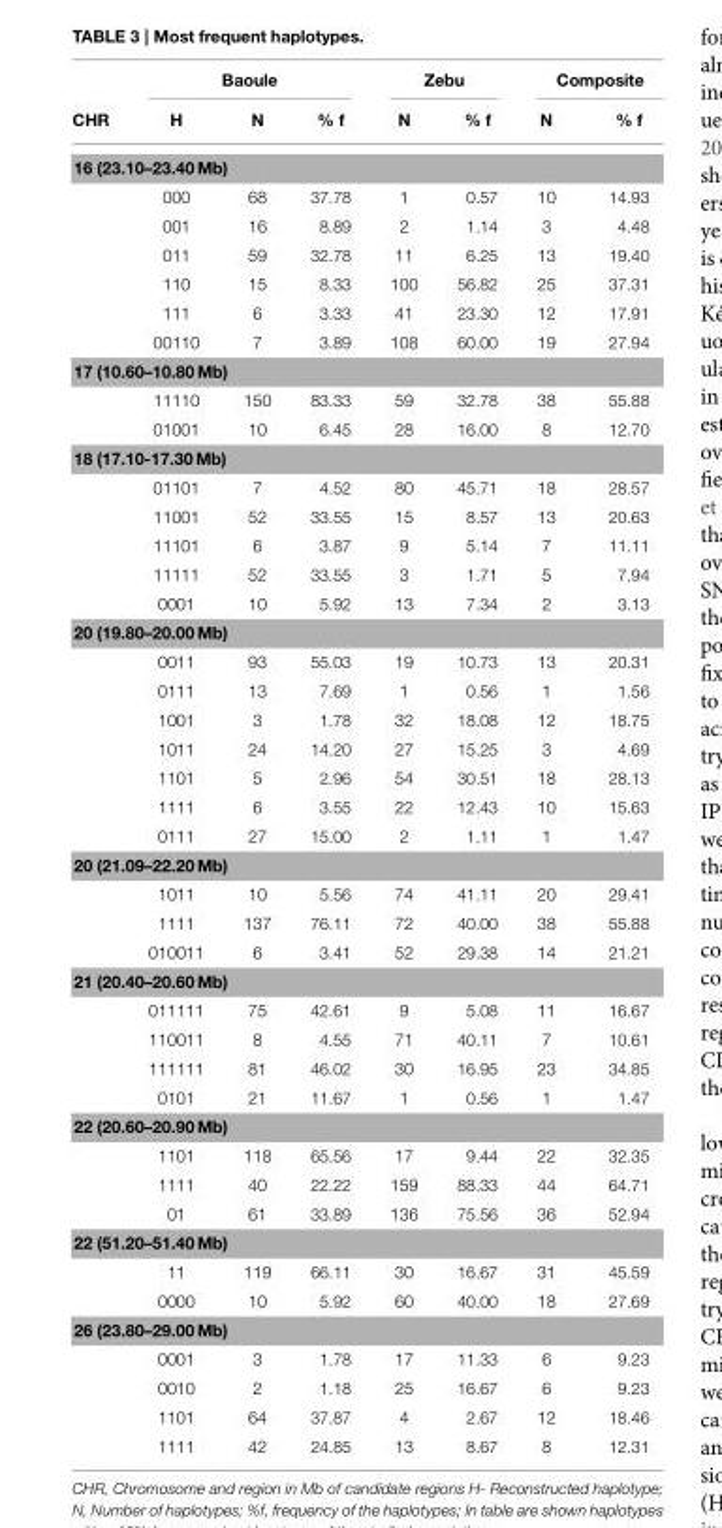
<table><thead><tr><td rowspan="2">CHR</td><td colspan="3">Baoule</td><td colspan="2">Zebu</td><td colspan="2">Composite</td></tr><tr><td>H</td><td>N</td><td>% f</td><td>N</td><td>% f</td><td>N</td><td>% f</td></tr></thead><tbody><tr><td colspan="8">16 (23.10–23.40 Mb)</td></tr><tr><td></td><td>000</td><td>68</td><td>37.78</td><td>1</td><td>0.57</td><td>10</td><td>14.93</td></tr><tr><td></td><td>001</td><td>16</td><td>8.89</td><td>2</td><td>1.14</td><td>3</td><td>4.48</td></tr><tr><td></td><td>011</td><td>59</td><td>32.78</td><td>11</td><td>6.25</td><td>13</td><td>19.40</td></tr><tr><td></td><td>110</td><td>15</td><td>8.33</td><td>100</td><td>56.82</td><td>25</td><td>37.31</td></tr><tr><td></td><td>111</td><td>6</td><td>3.33</td><td>41</td><td>23.30</td><td>12</td><td>17.91</td></tr><tr><td></td><td>00110</td><td>7</td><td>3.89</td><td>108</td><td>60.00</td><td>19</td><td>27.94</td></tr><tr><td colspan="8">17 (10.60–10.80 Mb)</td></tr><tr><td></td><td>11110</td><td>150</td><td>83.33</td><td>59</td><td>32.78</td><td>38</td><td>55.88</td></tr><tr><td></td><td>01001</td><td>10</td><td>6.45</td><td>28</td><td>16.00</td><td>8</td><td>12.70</td></tr><tr><td colspan="8">18 (17.10-17.30 Mb)</td></tr><tr><td></td><td>01101</td><td>7</td><td>4.52</td><td>80</td><td>45.71</td><td>18</td><td>28.57</td></tr><tr><td></td><td>11001</td><td>52</td><td>33.55</td><td>15</td><td>8.57</td><td>13</td><td>20.63</td></tr><tr><td></td><td>11101</td><td>6</td><td>3.87</td><td>9</td><td>5.14</td><td>7</td><td>11.11</td></tr><tr><td></td><td>11111</td><td>52</td><td>33.55</td><td>3</td><td>1.71</td><td>5</td><td>7.94</td></tr><tr><td></td><td>0001</td><td>10</td><td>5.92</td><td>13</td><td>7.34</td><td>2</td><td>3.13</td></tr><tr><td colspan="8">20 (19.80–20.00 Mb)</td></tr><tr><td></td><td>0011</td><td>93</td><td>55.03</td><td>19</td><td>10.73</td><td>13</td><td>20.31</td></tr><tr><td></td><td>0111</td><td>13</td><td>7.69</td><td>1</td><td>0.56</td><td>1</td><td>1.56</td></tr><tr><td></td><td>1001</td><td>3</td><td>1.78</td><td>32</td><td>18.08</td><td>12</td><td>18.75</td></tr><tr><td></td><td>1011</td><td>24</td><td>14.20</td><td>27</td><td>15.25</td><td>3</td><td>4.69</td></tr><tr><td></td><td>1101</td><td>5</td><td>2.96</td><td>54</td><td>30.51</td><td>18</td><td>28.13</td></tr><tr><td></td><td>1111</td><td>6</td><td>3.55</td><td>22</td><td>12.43</td><td>10</td><td>15.63</td></tr><tr><td></td><td>0111</td><td>27</td><td>15.00</td><td>2</td><td>1.11</td><td>1</td><td>1.47</td></tr><tr><td colspan="8">20 (21.09–22.20 Mb)</td></tr><tr><td></td><td>1011</td><td>10</td><td>5.56</td><td>74</td><td>41.11</td><td>20</td><td>29.41</td></tr><tr><td></td><td>1111</td><td>137</td><td>76.11</td><td>72</td><td>40.00</td><td>38</td><td>55.88</td></tr><tr><td></td><td>010011</td><td>6</td><td>3.41</td><td>52</td><td>29.38</td><td>14</td><td>21.21</td></tr><tr><td colspan="8">21 (20.40–20.60 Mb)</td></tr><tr><td></td><td>011111</td><td>75</td><td>42.61</td><td>9</td><td>5.08</td><td>11</td><td>16.67</td></tr><tr><td></td><td>110011</td><td>8</td><td>4.55</td><td>71</td><td>40.11</td><td>7</td><td>10.61</td></tr><tr><td></td><td>111111</td><td>81</td><td>46.02</td><td>30</td><td>16.95</td><td>23</td><td>34.85</td></tr><tr><td></td><td>0101</td><td>21</td><td>11.67</td><td>1</td><td>0.56</td><td>1</td><td>1.47</td></tr><tr><td colspan="8">22 (20.60–20.90 Mb)</td></tr><tr><td></td><td>1101</td><td>118</td><td>65.56</td><td>17</td><td>9.44</td><td>22</td><td>32.35</td></tr><tr><td></td><td>1111</td><td>40</td><td>22.22</td><td>159</td><td>88.33</td><td>44</td><td>64.71</td></tr><tr><td></td><td>01</td><td>61</td><td>33.89</td><td>136</td><td>75.56</td><td>36</td><td>52.94</td></tr><tr><td colspan="8">22 (51.20–51.40 Mb)</td></tr><tr><td></td><td>11</td><td>119</td><td>66.11</td><td>30</td><td>16.67</td><td>31</td><td>45.59</td></tr><tr><td></td><td>0000</td><td>10</td><td>5.92</td><td>60</td><td>40.00</td><td>18</td><td>27.69</td></tr><tr><td colspan="8">26 (23.80–29.00 Mb)</td></tr><tr><td></td><td>0001</td><td>3</td><td>1.78</td><td>17</td><td>11.33</td><td>6</td><td>9.23</td></tr><tr><td></td><td>0010</td><td>2</td><td>1.18</td><td>25</td><td>16.67</td><td>6</td><td>9.23</td></tr><tr><td></td><td>1101</td><td>64</td><td>37.87</td><td>4</td><td>2.67</td><td>12</td><td>18.46</td></tr><tr><td></td><td>1111</td><td>42</td><td>24.85</td><td>13</td><td>8.67</td><td>8</td><td>12.31</td></tr></tbody></table>